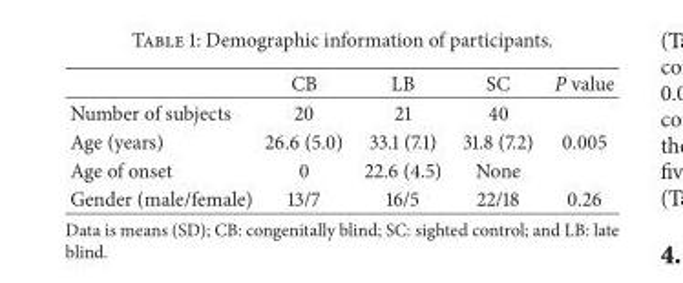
<table><thead><tr><td></td><td>CB</td><td>LB</td><td>SC</td><td>P value</td></tr></thead><tbody><tr><td>Number of subjects</td><td>20</td><td>21</td><td>40</td><td></td></tr><tr><td>Age (years)</td><td>26.6 (5.0)</td><td>33.1 (7.1)</td><td>31.8 (7.2)</td><td>0.005</td></tr><tr><td>Age of onset</td><td>0</td><td>22.6 (4.5)</td><td>None</td><td></td></tr><tr><td>Gender (male/female)</td><td>13/7</td><td>16/5</td><td>22/18</td><td>0.26</td></tr></tbody></table>